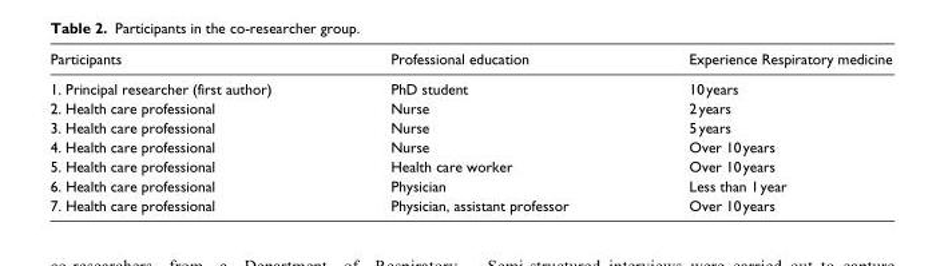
<table><thead><tr><td>Participants</td><td>Professional education</td><td>Experience Respiratory medicine</td></tr></thead><tbody><tr><td>1. Principal researcher (first author)</td><td>PhD student</td><td>10 years</td></tr><tr><td>2. Health care professional</td><td>Nurse</td><td>2 years</td></tr><tr><td>3. Health care professional</td><td>Nurse</td><td>5 years</td></tr><tr><td>4. Health care professional</td><td>Nurse</td><td>Over 10 years</td></tr><tr><td>5. Health care professional</td><td>Health care worker</td><td>Over 10 years</td></tr><tr><td>6. Health care professional</td><td>Physician</td><td>Less than 1 year</td></tr><tr><td>7. Health care professional</td><td>Physician, assistant professor</td><td>Over 10 years</td></tr></tbody></table>